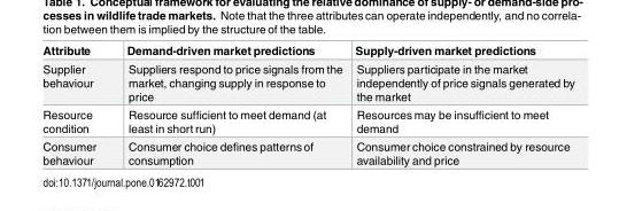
<table><thead><tr><td>Attribute</td><td>Demand-driven market predictions</td><td>Supply-driven market predictions</td></tr></thead><tbody><tr><td>Supplier behaviour</td><td>Suppliers respond to price signals from the market, changing supply in response to price</td><td>Suppliers participate in the market independently of price signals generated by the market</td></tr><tr><td>Resource condition</td><td>Resource sufficient to meet demand (at least in short run)</td><td>Resources may be insufficient to meet demand</td></tr><tr><td>Consumer behaviour</td><td>Consumer choice defines patterns of consumption</td><td>Consumer choice constrained by resource availability and price</td></tr></tbody></table>